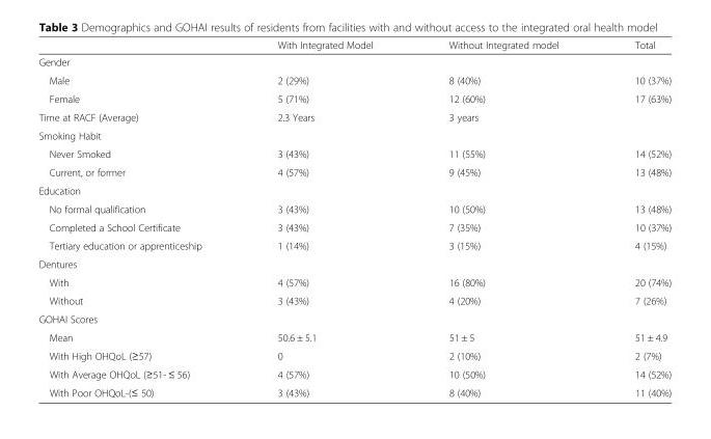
<table><thead><tr><td></td><td>With Integrated Model</td><td>Without Integrated model</td><td>Total</td></tr></thead><tbody><tr><td colspan="4">Gender</td></tr><tr><td>Male</td><td>2 (29%)</td><td>8 (40%)</td><td>10 (37%)</td></tr><tr><td>Female</td><td>5 (71%)</td><td>12 (60%)</td><td>17 (63%)</td></tr><tr><td>Time at RACF (Average)</td><td>2.3 Years</td><td>3 years</td><td></td></tr><tr><td colspan="4">Smoking Habit</td></tr><tr><td>Never Smoked</td><td>3 (43%)</td><td>11 (55%)</td><td>14 (52%)</td></tr><tr><td>Current, or former</td><td>4 (57%)</td><td>9 (45%)</td><td>13 (48%)</td></tr><tr><td colspan="4">Education</td></tr><tr><td>No formal qualification</td><td>3 (43%)</td><td>10 (50%)</td><td>13 (48%)</td></tr><tr><td>Completed a School Certificate</td><td>3 (43%)</td><td>7 (35%)</td><td>10 (37%)</td></tr><tr><td>Tertiary education or apprenticeship</td><td>1 (14%)</td><td>3 (15%)</td><td>4 (15%)</td></tr><tr><td colspan="4">Dentures</td></tr><tr><td>With</td><td>4 (57%)</td><td>16 (80%)</td><td>20 (74%)</td></tr><tr><td>Without</td><td>3 (43%)</td><td>4 (20%)</td><td>7 (26%)</td></tr><tr><td colspan="4">GOHAI Scores</td></tr><tr><td>Mean</td><td>50.6 ± 5.1</td><td>51 ± 5</td><td>51 ± 4.9</td></tr><tr><td>With High OHQoL (≥57)</td><td>0</td><td>2 (10%)</td><td>2 (7%)</td></tr><tr><td>With Average OHQoL (≥51- ≤ 56)</td><td>4 (57%)</td><td>10 (50%)</td><td>14 (52%)</td></tr><tr><td>With Poor OHQoL-(≤ 50)</td><td>3 (43%)</td><td>8 (40%)</td><td>11 (40%)</td></tr></tbody></table>